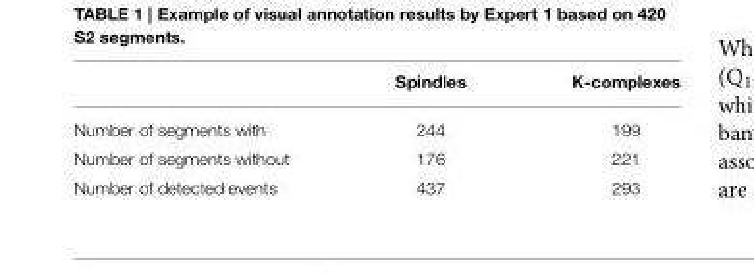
<table><thead><tr><td></td><td>Spindles</td><td>K-complexes</td></tr></thead><tbody><tr><td>Number of segments with</td><td>244</td><td>199</td></tr><tr><td>Number of segments without</td><td>176</td><td>221</td></tr><tr><td>Number of detected events</td><td>437</td><td>293</td></tr></tbody></table>